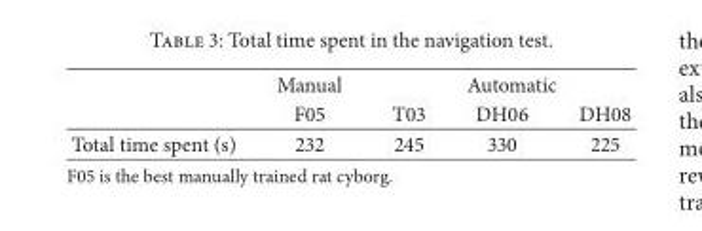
<table><thead><tr><td rowspan="2"></td><td rowspan="2">Manual F05</td><td colspan="3">Automatic</td></tr><tr><td>T03</td><td>DH06</td><td>DH08</td></tr></thead><tbody><tr><td>Total time spent (s)</td><td>232</td><td>245</td><td>330</td><td>225</td></tr></tbody></table>